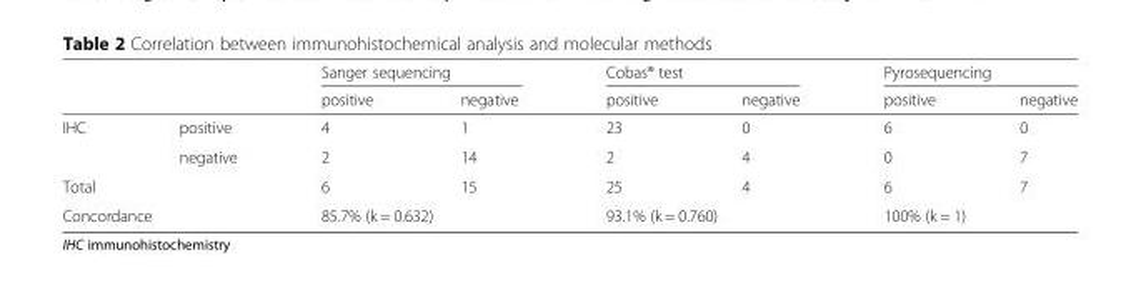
<table><thead><tr><td rowspan="2"></td><td rowspan="2"></td><td colspan="2">Sanger sequencing</td><td colspan="2">Cobas® test</td><td colspan="2">Pyrosequencing</td></tr><tr><td>positive</td><td>negative</td><td>positive</td><td>negative</td><td>positive</td><td>negative</td></tr></thead><tbody><tr><td rowspan="2">IHC</td><td>positive</td><td>4</td><td>1</td><td>23</td><td>0</td><td>6</td><td>0</td></tr><tr><td>negative</td><td>2</td><td>14</td><td>2</td><td>4</td><td>0</td><td>7</td></tr><tr><td>Total</td><td></td><td>6</td><td>15</td><td>25</td><td>4</td><td>6</td><td>7</td></tr><tr><td colspan="2">Concordance</td><td colspan="2">85.7% (k = 0.632)</td><td colspan="2">93.1% (k = 0.760)</td><td colspan="2">100% (k = 1)</td></tr></tbody></table>